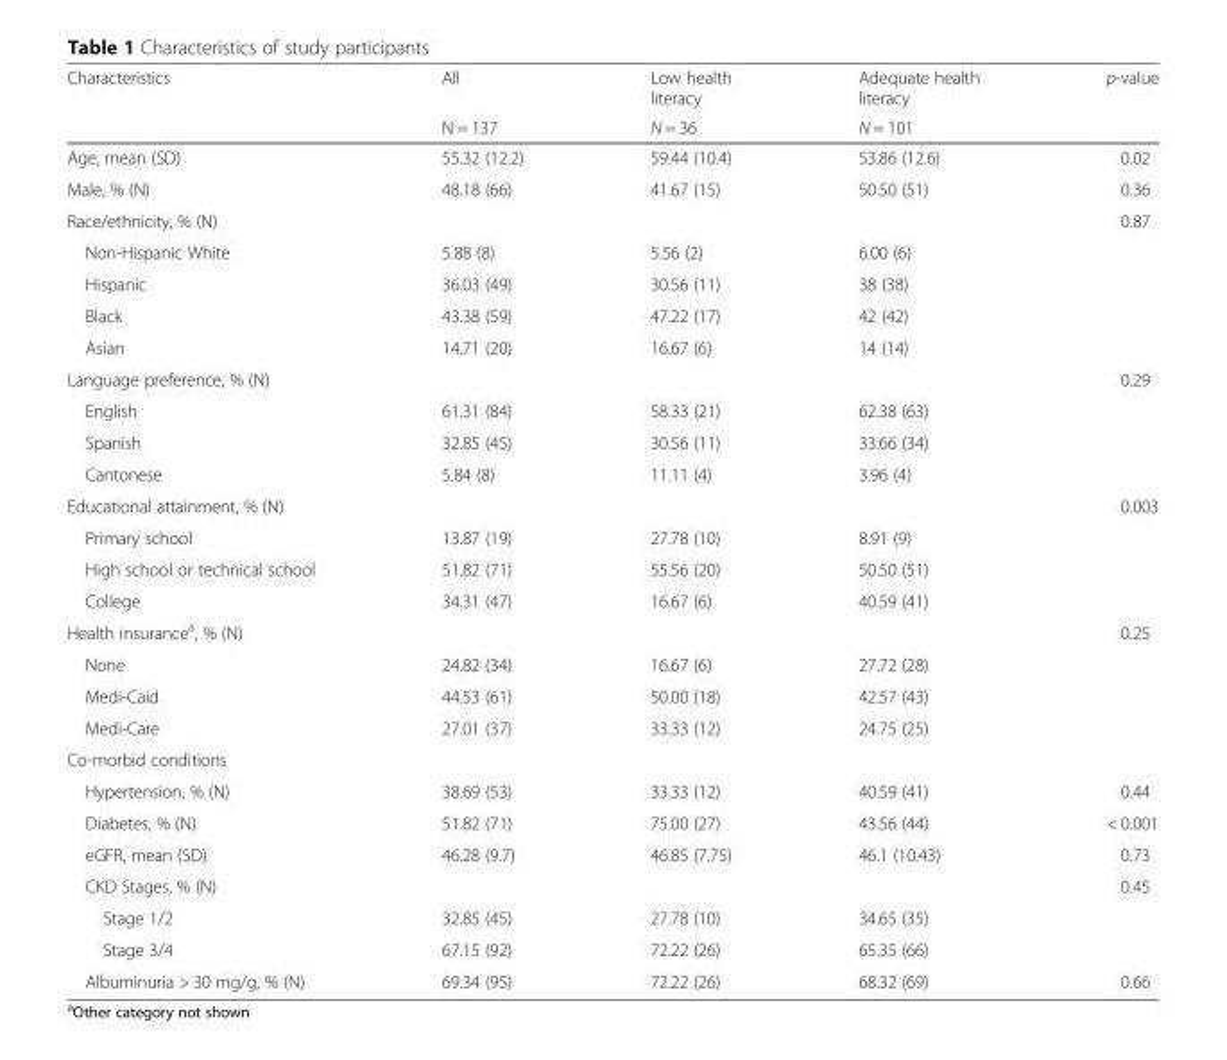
<table><thead><tr><td rowspan="2">Characteristics</td><td rowspan="2">All N = 137</td><td rowspan="2">Low health literacy N = 36</td><td rowspan="2">Adequate health literacy N = 101</td><td rowspan="2">p-value</td></tr><tr></tr></thead><tbody><tr><td>Age, mean (SD)</td><td>55.32 (12.2)</td><td>59.44 (10.4)</td><td>53.86 (12.6)</td><td>0.02</td></tr><tr><td>Male, % (N)</td><td>48.18 (66)</td><td>41.67 (15)</td><td>50.50 (51)</td><td>0.36</td></tr><tr><td>Race/ethnicity, % (N)</td><td></td><td></td><td></td><td>0.87</td></tr><tr><td>Non-Hispanic White</td><td>5.88 (8)</td><td>5.56 (2)</td><td>6.00 (6)</td><td></td></tr><tr><td>Hispanic</td><td>36.03 (49)</td><td>30.56 (11)</td><td>38 (38)</td><td></td></tr><tr><td>Black</td><td>43.38 (59)</td><td>47.22 (17)</td><td>42 (42)</td><td></td></tr><tr><td>Asian</td><td>14.71 (20)</td><td>16.67 (6)</td><td>14 (14)</td><td></td></tr><tr><td>Language preference, % (N)</td><td></td><td></td><td></td><td>0.29</td></tr><tr><td>English</td><td>61.31 (84)</td><td>58.33 (21)</td><td>62.38 (63)</td><td></td></tr><tr><td>Spanish</td><td>32.85 (45)</td><td>30.56 (11)</td><td>33.66 (34)</td><td></td></tr><tr><td>Cantonese</td><td>5.84 (8)</td><td>11.11 (4)</td><td>3.96 (4)</td><td></td></tr><tr><td>Educational attainment, % (N)</td><td></td><td></td><td></td><td>0.003</td></tr><tr><td>Primary school</td><td>13.87 (19)</td><td>27.78 (10)</td><td>8.91 (9)</td><td></td></tr><tr><td>High school or technical school</td><td>51.82 (71)</td><td>55.56 (20)</td><td>50.50 (51)</td><td></td></tr><tr><td>College</td><td>34.31 (47)</td><td>16.67 (6)</td><td>40.59 (41)</td><td></td></tr><tr><td>Health insurance<sup>a</sup>, % (N)</td><td></td><td></td><td></td><td>0.25</td></tr><tr><td>None</td><td>24.82 (34)</td><td>16.67 (6)</td><td>27.72 (28)</td><td></td></tr><tr><td>Medi-Caid</td><td>44.53 (61)</td><td>50.00 (18)</td><td>42.57 (43)</td><td></td></tr><tr><td>Medi-Care</td><td>27.01 (37)</td><td>33.33 (12)</td><td>24.75 (25)</td><td></td></tr><tr><td colspan="5">Co-morbid conditions</td></tr><tr><td>Hypertension, % (N)</td><td>38.69 (53)</td><td>33.33 (12)</td><td>40.59 (41)</td><td>0.44</td></tr><tr><td>Diabetes, % (N)</td><td>51.82 (71)</td><td>75.00 (27)</td><td>43.56 (44)</td><td>&lt; 0.001</td></tr><tr><td>eGFR, mean (SD)</td><td>46.28 (9.7)</td><td>46.85 (7.75)</td><td>46.1 (10.43)</td><td>0.73</td></tr><tr><td>CKD Stages, % (N)</td><td></td><td></td><td></td><td>0.45</td></tr><tr><td>Stage 1/2</td><td>32.85 (45)</td><td>27.78 (10)</td><td>34.65 (35)</td><td></td></tr><tr><td>Stage 3/4</td><td>67.15 (92)</td><td>72.22 (26)</td><td>65.35 (66)</td><td></td></tr><tr><td>Albuminuria &gt; 30 mg/g, % (N)</td><td>69.34 (95)</td><td>72.22 (26)</td><td>68.32 (69)</td><td>0.66</td></tr></tbody></table>